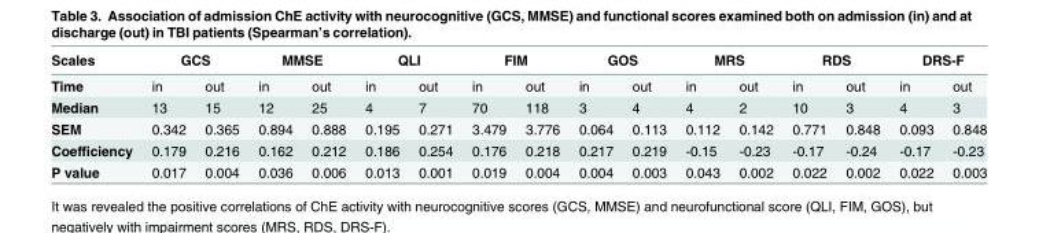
<table><thead><tr><td rowspan="2">Scales Time</td><td colspan="2">GCS</td><td colspan="2">MMSE</td><td colspan="2">QLI</td><td colspan="2">FIM</td><td colspan="2">GOS</td><td colspan="2">MRS</td><td colspan="2">RDS</td><td colspan="2">DRS-F</td></tr><tr><td>in</td><td>out</td><td>in</td><td>out</td><td>in</td><td>out</td><td>in</td><td>out</td><td>in</td><td>out</td><td>in</td><td>out</td><td>in</td><td>out</td><td>in</td><td>out</td></tr></thead><tbody><tr><td>Median</td><td>13</td><td>15</td><td>12</td><td>25</td><td>4</td><td>7</td><td>70</td><td>118</td><td>3</td><td>4</td><td>4</td><td>2</td><td>10</td><td>3</td><td>4</td><td>3</td></tr><tr><td>SEM</td><td>0.342</td><td>0.365</td><td>0.894</td><td>0.888</td><td>0.195</td><td>0.271</td><td>3.479</td><td>3.776</td><td>0.064</td><td>0.113</td><td>0.112</td><td>0.142</td><td>0.771</td><td>0.848</td><td>0.093</td><td>0.848</td></tr><tr><td>Coefficiency</td><td>0.179</td><td>0.216</td><td>0.162</td><td>0.212</td><td>0.186</td><td>0.254</td><td>0.176</td><td>0.218</td><td>0.217</td><td>0.219</td><td>-0.15</td><td>-0.23</td><td>-0.17</td><td>-0.24</td><td>-0.17</td><td>-0.23</td></tr><tr><td>P value</td><td>0.017</td><td>0.004</td><td>0.036</td><td>0.006</td><td>0.013</td><td>0.001</td><td>0.019</td><td>0.004</td><td>0.004</td><td>0.003</td><td>0.043</td><td>0.002</td><td>0.022</td><td>0.002</td><td>0.022</td><td>0.003</td></tr></tbody></table>